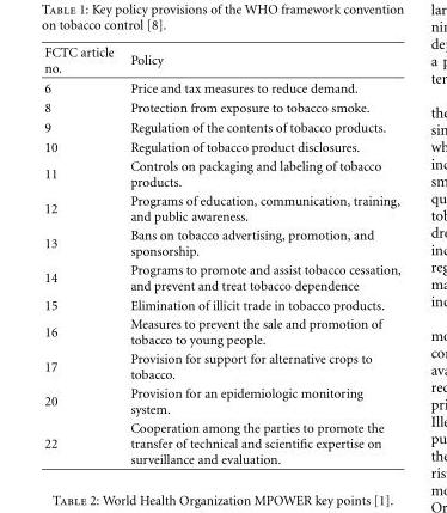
<table><thead><tr><td>FCTC article no.</td><td>Policy</td></tr></thead><tbody><tr><td>6</td><td>Price and tax measures to reduce demand.</td></tr><tr><td>8</td><td>Protection from exposure to tobacco smoke.</td></tr><tr><td>9</td><td>Regulation of the contents of tobacco products.</td></tr><tr><td>10</td><td>Regulation of tobacco product disclosures.</td></tr><tr><td>11</td><td>Controls on packaging and labeling of tobacco products.</td></tr><tr><td>12</td><td>Programs of education, communication, training, and public awareness.</td></tr><tr><td>13</td><td>Bans on tobacco advertising, promotion, and sponsorship.</td></tr><tr><td>14</td><td>Programs to promote and assist tobacco cessation, and prevent and treat tobacco dependence</td></tr><tr><td>15</td><td>Elimination of illicit trade in tobacco products.</td></tr><tr><td>16</td><td>Measures to prevent the sale and promotion of tobacco to young people.</td></tr><tr><td>17</td><td>Provision for support for alternative crops to tobacco.</td></tr><tr><td>20</td><td>Provision for an epidemiologic monitoring system.</td></tr><tr><td>22</td><td>Cooperation among the parties to promote the transfer of technical and scientific expertise on surveillance and evaluation.</td></tr></tbody></table>